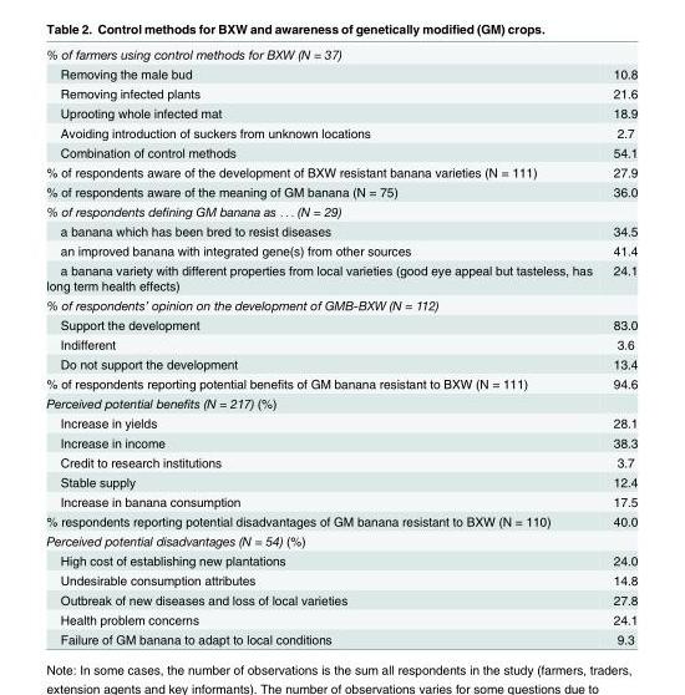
<table><tbody><tr><td colspan="2">% of farmers using control methods for BXW (N = 37)</td></tr><tr><td>Removing the male bud</td><td>10.8</td></tr><tr><td>Removing infected plants</td><td>21.6</td></tr><tr><td>Uprooting whole infected mat</td><td>18.9</td></tr><tr><td>Avoiding introduction of suckers from unknown locations</td><td>2.7</td></tr><tr><td>Combination of control methods</td><td>54.1</td></tr><tr><td>% of respondents aware of the development of BXW resistant banana varieties (N = 111)</td><td>27.9</td></tr><tr><td>% of respondents aware of the meaning of GM banana (N = 75)</td><td>36.0</td></tr><tr><td colspan="2">% of respondents defining GM banana as . . . (N = 29)</td></tr><tr><td>a banana which has been bred to resist diseases</td><td>34.5</td></tr><tr><td>an improved banana with integrated gene(s) from other sources</td><td>41.4</td></tr><tr><td>a banana variety with different properties from local varieties (good eye appeal but tasteless, has long term health effects)</td><td>24.1</td></tr><tr><td colspan="2">% of respondents’ opinion on the development of GMB-BXW (N = 112)</td></tr><tr><td>Support the development</td><td>83.0</td></tr><tr><td>Indifferent</td><td>3.6</td></tr><tr><td>Do not support the development</td><td>13.4</td></tr><tr><td>% of respondents reporting potential benefits of GM banana resistant to BXW (N = 111)</td><td>94.6</td></tr><tr><td colspan="2">Perceived potential benefits (N = 217) (%)</td></tr><tr><td>Increase in yields</td><td>28.1</td></tr><tr><td>Increase in income</td><td>38.3</td></tr><tr><td>Credit to research institutions</td><td>3.7</td></tr><tr><td>Stable supply</td><td>12.4</td></tr><tr><td>Increase in banana consumption</td><td>17.5</td></tr><tr><td>% respondents reporting potential disadvantages of GM banana resistant to BXW (N = 110)</td><td>40.0</td></tr><tr><td colspan="2">Perceived potential disadvantages (N = 54) (%)</td></tr><tr><td>High cost of establishing new plantations</td><td>24.0</td></tr><tr><td>Undesirable consumption attributes</td><td>14.8</td></tr><tr><td>Outbreak of new diseases and loss of local varieties</td><td>27.8</td></tr><tr><td>Health problem concerns</td><td>24.1</td></tr><tr><td>Failure of GM banana to adapt to local conditions</td><td>9.3</td></tr></tbody></table>